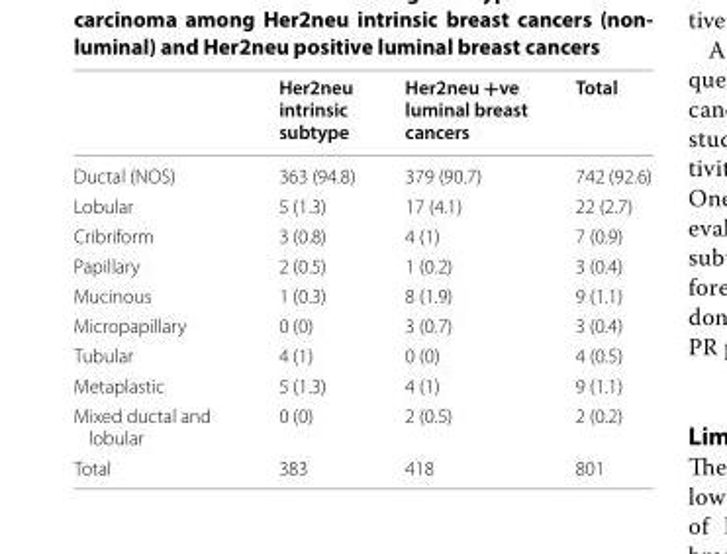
<table><thead><tr><td></td><td>Her2neu intrinsic subtype</td><td>Her2neu +ve luminal breast cancers</td><td>Total</td></tr></thead><tbody><tr><td>Ductal (NOS)</td><td>363 (94.8)</td><td>379 (90.7)</td><td>742 (92.6)</td></tr><tr><td>Lobular</td><td>5 (1.3)</td><td>17 (4.1)</td><td>22 (2.7)</td></tr><tr><td>Cribriform</td><td>3 (0.8)</td><td>4 (1)</td><td>7 (0.9)</td></tr><tr><td>Papillary</td><td>2 (0.5)</td><td>1 (0.2)</td><td>3 (0.4)</td></tr><tr><td>Mucinous</td><td>1 (0.3)</td><td>8 (1.9)</td><td>9 (1.1)</td></tr><tr><td>Micropapillary</td><td>0 (0)</td><td>3 (0.7)</td><td>3 (0.4)</td></tr><tr><td>Tubular</td><td>4 (1)</td><td>0 (0)</td><td>4 (0.5)</td></tr><tr><td>Metaplastic</td><td>5 (1.3)</td><td>4 (1)</td><td>9 (1.1)</td></tr><tr><td>Mixed ductal and lobular</td><td>0 (0)</td><td>2 (0.5)</td><td>2 (0.2)</td></tr><tr><td>Total</td><td>383</td><td>418</td><td>801</td></tr></tbody></table>